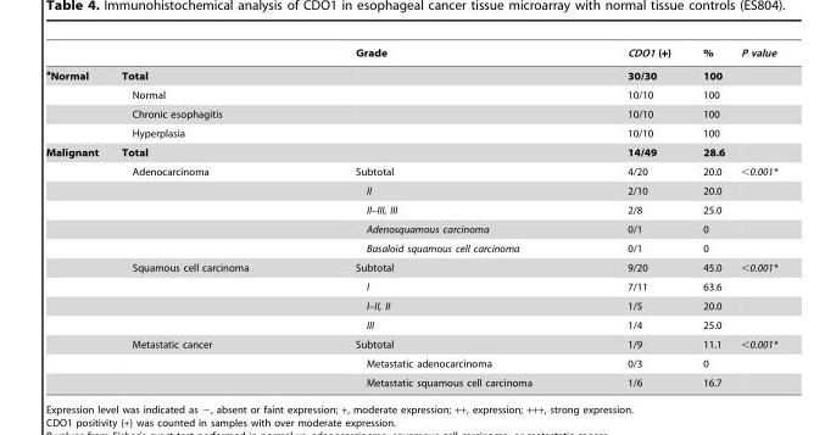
<table><thead><tr><td></td><td></td><td>Grade</td><td>CDO1 (+)</td><td>%</td><td>P value</td></tr></thead><tbody><tr><td rowspan="4">aNormal</td><td>Total</td><td></td><td>30/30</td><td>100</td><td></td></tr><tr><td>Normal</td><td></td><td>10/10</td><td>100</td><td></td></tr><tr><td>Chronic esophagitis</td><td></td><td>10/10</td><td>100</td><td></td></tr><tr><td>Hyperplasia</td><td></td><td>10/10</td><td>100</td><td></td></tr><tr><td rowspan="13">Malignant</td><td>Total</td><td></td><td>14/49</td><td>28.6</td><td></td></tr><tr><td>Adenocarcinoma</td><td>Subtotal</td><td>4/20</td><td>20.0</td><td>&lt;0.001*</td></tr><tr><td></td><td>II</td><td>2/10</td><td>20.0</td><td></td></tr><tr><td></td><td>II–III, III</td><td>2/8</td><td>25.0</td><td></td></tr><tr><td></td><td>Adenosquamous carcinoma</td><td>0/1</td><td>0</td><td></td></tr><tr><td></td><td>Basaloid squamous cell carcinoma</td><td>0/1</td><td>0</td><td></td></tr><tr><td>Squamous cell carcinoma</td><td>Subtotal</td><td>9/20</td><td>45.0</td><td>&lt;0.001*</td></tr><tr><td></td><td>I</td><td>7/11</td><td>63.6</td><td></td></tr><tr><td></td><td>I–II, II</td><td>1/5</td><td>20.0</td><td></td></tr><tr><td></td><td>III</td><td>1/4</td><td>25.0</td><td></td></tr><tr><td>Metastatic cancer</td><td>Subtotal</td><td>1/9</td><td>11.1</td><td>&lt;0.001*</td></tr><tr><td></td><td>Metastatic adenocarcinoma</td><td>0/3</td><td>0</td><td></td></tr><tr><td></td><td>Metastatic squamous cell carcinoma</td><td>1/6</td><td>16.7</td><td></td></tr></tbody></table>